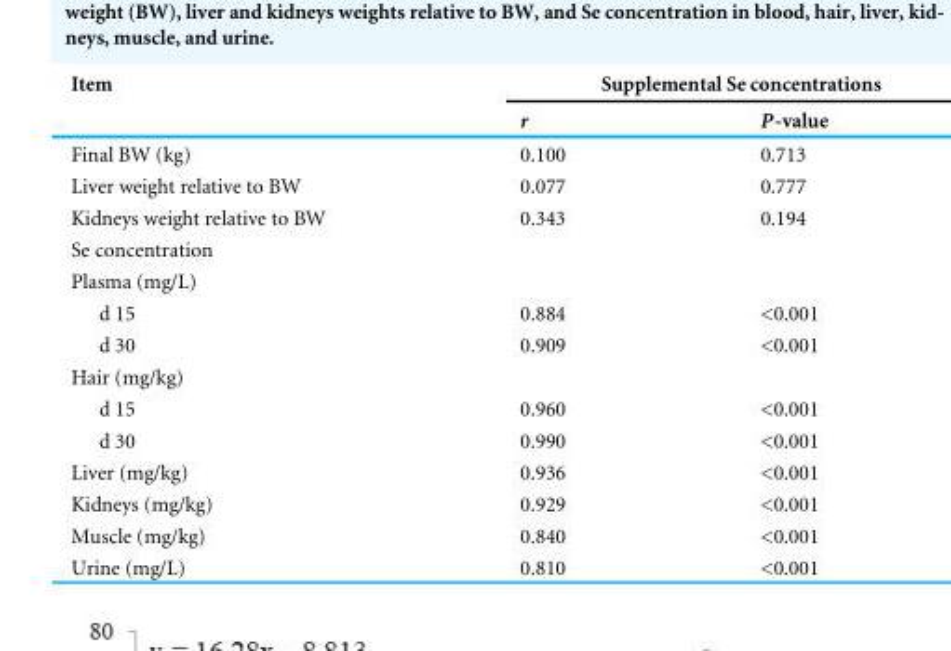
<table><thead><tr><td rowspan="2">Item</td><td colspan="2">Supplemental Se concentrations</td></tr><tr><td>r</td><td>P-value</td></tr></thead><tbody><tr><td>Final BW (kg)</td><td>0.100</td><td>0.713</td></tr><tr><td>Liver weight relative to BW</td><td>0.077</td><td>0.777</td></tr><tr><td>Kidneys weight relative to BW</td><td>0.343</td><td>0.194</td></tr><tr><td colspan="3">Se concentration</td></tr><tr><td colspan="3">Plasma (mg/L)</td></tr><tr><td>d 15</td><td>0.884</td><td>&lt;0.001</td></tr><tr><td>d 30</td><td>0.909</td><td>&lt;0.001</td></tr><tr><td colspan="3">Hair (mg/kg)</td></tr><tr><td>d 15</td><td>0.960</td><td>&lt;0.001</td></tr><tr><td>d 30</td><td>0.990</td><td>&lt;0.001</td></tr><tr><td>Liver (mg/kg)</td><td>0.936</td><td>&lt;0.001</td></tr><tr><td>Kidneys (mg/kg)</td><td>0.929</td><td>&lt;0.001</td></tr><tr><td>Muscle (mg/kg)</td><td>0.840</td><td>&lt;0.001</td></tr><tr><td>Urine (mg/L)</td><td>0.810</td><td>&lt;0.001</td></tr></tbody></table>